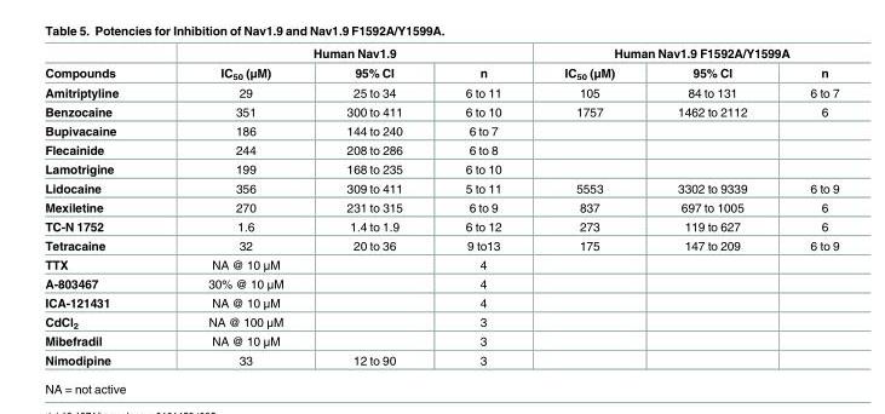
<table><thead><tr><td rowspan="2">Compounds</td><td colspan="3">Human Nav1.9</td><td colspan="3">Human Nav1.9 F1592A/Y1599A</td></tr><tr><td>IC<sub>50</sub> (μM)</td><td>95% CI</td><td>n</td><td>IC<sub>50</sub> (μM)</td><td>95% CI</td><td>n</td></tr></thead><tbody><tr><td>Amitriptyline</td><td>29</td><td>25 to 34</td><td>6 to 11</td><td>105</td><td>84 to 131</td><td>6 to 7</td></tr><tr><td>Benzocaine</td><td>351</td><td>300 to 411</td><td>6 to 10</td><td>1757</td><td>1462 to 2112</td><td>6</td></tr><tr><td>Bupivacaine</td><td>186</td><td>144 to 240</td><td>6 to 7</td><td></td><td></td><td></td></tr><tr><td>Flecainide</td><td>244</td><td>208 to 286</td><td>6 to 8</td><td></td><td></td><td></td></tr><tr><td>Lamotrigine</td><td>199</td><td>168 to 235</td><td>6 to 10</td><td></td><td></td><td></td></tr><tr><td>Lidocaine</td><td>356</td><td>309 to 411</td><td>5 to 11</td><td>5553</td><td>3302 to 9339</td><td>6 to 9</td></tr><tr><td>Mexiletine</td><td>270</td><td>231 to 315</td><td>6 to 9</td><td>837</td><td>697 to 1005</td><td>6</td></tr><tr><td>TC-N 1752</td><td>1.6</td><td>1.4 to 1.9</td><td>6 to 12</td><td>273</td><td>119 to 627</td><td>6</td></tr><tr><td>Tetracaine</td><td>32</td><td>20 to 36</td><td>9 to13</td><td>175</td><td>147 to 209</td><td>6 to 9</td></tr><tr><td>TTX</td><td>NA @ 10 μM</td><td></td><td>4</td><td></td><td></td><td></td></tr><tr><td>A-803467</td><td>30% @ 10 μM</td><td></td><td>4</td><td></td><td></td><td></td></tr><tr><td>ICA-121431</td><td>NA @ 10 μM</td><td></td><td>4</td><td></td><td></td><td></td></tr><tr><td>CdCl<sub>2</sub></td><td>NA @ 100 μM</td><td></td><td>3</td><td></td><td></td><td></td></tr><tr><td>Mibefradil</td><td>NA @ 10 μM</td><td></td><td>3</td><td></td><td></td><td></td></tr><tr><td>Nimodipine</td><td>33</td><td>12 to 90</td><td>3</td><td></td><td></td><td></td></tr></tbody></table>